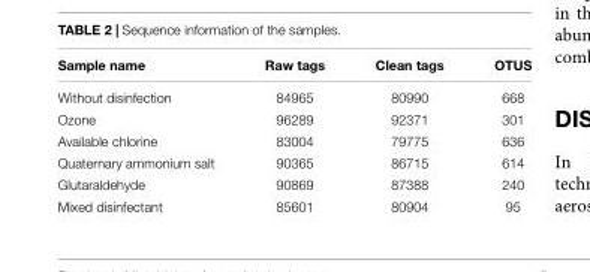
<table><thead><tr><td>Sample name</td><td>Raw tags</td><td>Clean tags</td><td>OTUS</td></tr></thead><tbody><tr><td>Without disinfection</td><td>84965</td><td>80990</td><td>668</td></tr><tr><td>Ozone</td><td>96289</td><td>92371</td><td>301</td></tr><tr><td>Available chlorine</td><td>83004</td><td>79775</td><td>636</td></tr><tr><td>Quaternary ammonium salt</td><td>90365</td><td>86715</td><td>614</td></tr><tr><td>Glutaraldehyde</td><td>90869</td><td>87388</td><td>240</td></tr><tr><td>Mixed disinfectant</td><td>85601</td><td>80904</td><td>95</td></tr></tbody></table>